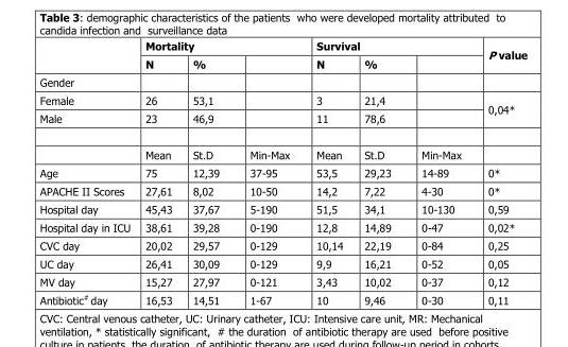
<table><thead><tr><td rowspan="2"></td><td colspan="3">Mortality</td><td colspan="3">Survival</td><td rowspan="2">P value</td></tr><tr><td>N</td><td>%</td><td></td><td>N</td><td>%</td><td></td></tr></thead><tbody><tr><td colspan="8">Gender</td></tr><tr><td>Female</td><td>26</td><td>53,1</td><td></td><td>3</td><td>21,4</td><td></td><td rowspan="2">0,04*</td></tr><tr><td rowspan="2">Male</td><td>23</td><td>46,9</td><td></td><td>11</td><td>78,6</td><td></td></tr><tr><td>Mean</td><td>St.D</td><td>Min-Max</td><td>Mean</td><td>St.D</td><td>Min-Max</td><td></td></tr><tr><td>Age</td><td>75</td><td>12,39</td><td>37-95</td><td>53,5</td><td>29,23</td><td>14-89</td><td>0*</td></tr><tr><td>APACHE II Scores</td><td>27,61</td><td>8,02</td><td>10-50</td><td>14,2</td><td>7,22</td><td>4-30</td><td>0*</td></tr><tr><td>Hospital day</td><td>45,43</td><td>37,67</td><td>5-190</td><td>51,5</td><td>34,1</td><td>10-130</td><td>0,59</td></tr><tr><td>Hospital day in ICU</td><td>38,61</td><td>39,28</td><td>0-190</td><td>12,8</td><td>14,89</td><td>0-47</td><td>0,02*</td></tr><tr><td>CVC day</td><td>20,02</td><td>29,57</td><td>0-129</td><td>10,14</td><td>22,19</td><td>0-84</td><td>0,25</td></tr><tr><td>UC day</td><td>26,41</td><td>30,09</td><td>0-129</td><td>9,9</td><td>16,21</td><td>0-52</td><td>0,05</td></tr><tr><td>MV day</td><td>15,27</td><td>27,97</td><td>0-121</td><td>3,43</td><td>10,02</td><td>0-37</td><td>0,12</td></tr><tr><td>Antibiotic# day</td><td>16,53</td><td>14,51</td><td>1-67</td><td>10</td><td>9,46</td><td>0-30</td><td>0,11</td></tr></tbody></table>